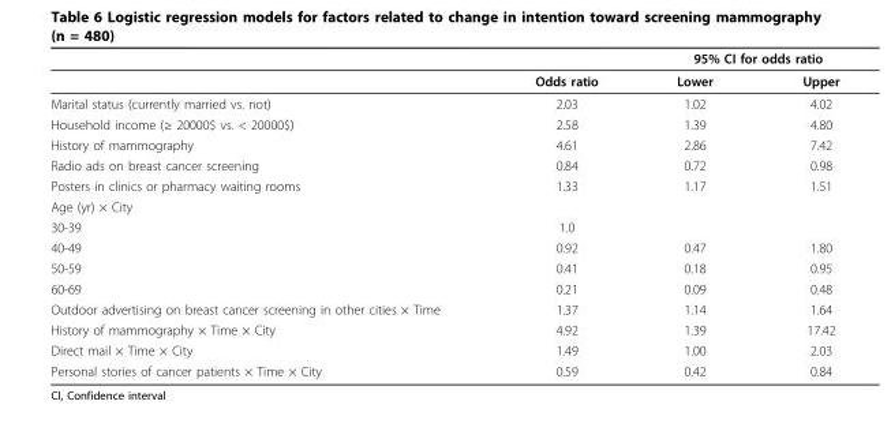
<table><thead><tr><td rowspan="2"></td><td rowspan="2">Odds ratio</td><td colspan="2">95% CI for odds ratio</td></tr><tr><td>Lower</td><td>Upper</td></tr></thead><tbody><tr><td>Marital status (currently married vs. not)</td><td>2.03</td><td>1.02</td><td>4.02</td></tr><tr><td>Household income (≥ 20000$ vs. &lt; 20000$)</td><td>2.58</td><td>1.39</td><td>4.80</td></tr><tr><td>History of mammography</td><td>4.61</td><td>2.86</td><td>7.42</td></tr><tr><td>Radio ads on breast cancer screening</td><td>0.84</td><td>0.72</td><td>0.98</td></tr><tr><td>Posters in clinics or pharmacy waiting rooms</td><td>1.33</td><td>1.17</td><td>1.51</td></tr><tr><td colspan="4">Age (yr) × City</td></tr><tr><td>30-39</td><td>1.0</td><td></td><td></td></tr><tr><td>40-49</td><td>0.92</td><td>0.47</td><td>1.80</td></tr><tr><td>50-59</td><td>0.41</td><td>0.18</td><td>0.95</td></tr><tr><td>60-69</td><td>0.21</td><td>0.09</td><td>0.48</td></tr><tr><td>Outdoor advertising on breast cancer screening in other cities × Time</td><td>1.37</td><td>1.14</td><td>1.64</td></tr><tr><td>History of mammography × Time × City</td><td>4.92</td><td>1.39</td><td>17.42</td></tr><tr><td>Direct mail × Time × City</td><td>1.49</td><td>1.00</td><td>2.03</td></tr><tr><td>Personal stories of cancer patients × Time × City</td><td>0.59</td><td>0.42</td><td>0.84</td></tr></tbody></table>